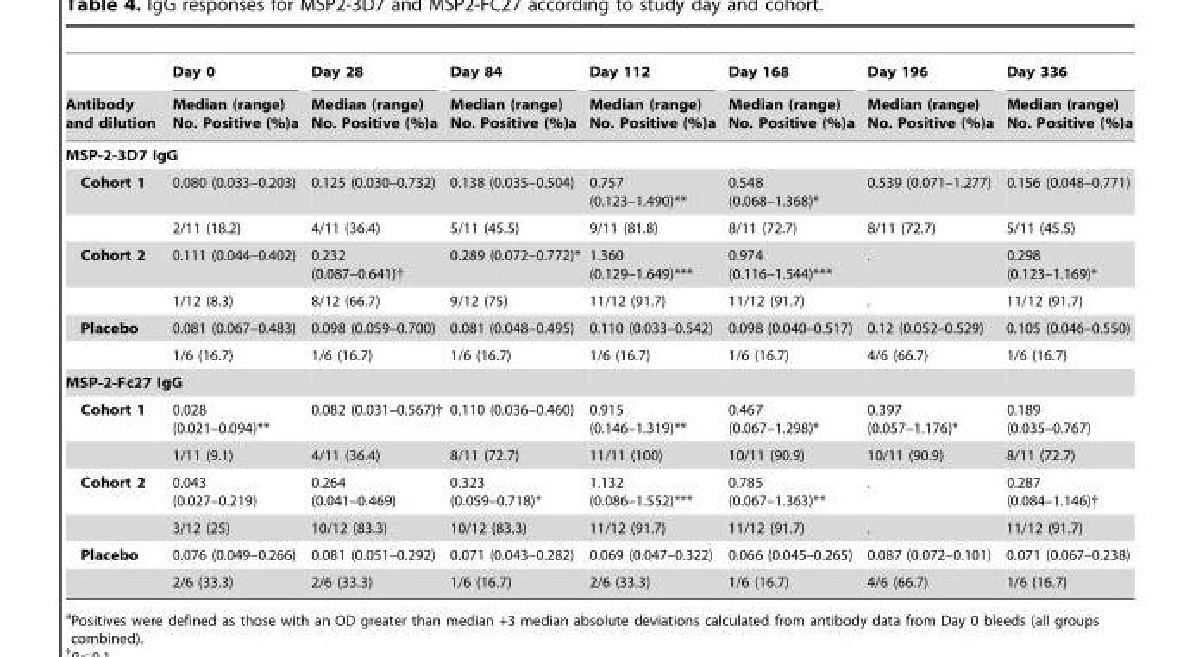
<table><thead><tr><td rowspan="2">Antibody and dilution</td><td rowspan="2">Day 0 Median (range) No. Positive (%)<sup>a</sup></td><td rowspan="2">Day 28 Median (range) No. Positive (%)<sup>a</sup></td><td rowspan="2">Day 84 Median (range) No. Positive (%)<sup>a</sup></td><td rowspan="2">Day 112 Median (range) No. Positive (%)<sup>a</sup></td><td rowspan="2">Day 168 Median (range) No. Positive (%)<sup>a</sup></td><td rowspan="2">Day 196 Median (range) No. Positive (%)<sup>a</sup></td><td rowspan="2">Day 336 Median (range) No. Positive (%)<sup>a</sup></td></tr><tr></tr></thead><tbody><tr><td colspan="8">MSP-2-3D7 IgG</td></tr><tr><td rowspan="2">Cohort 1</td><td>0.080 (0.033–0.203)</td><td>0.125 (0.030–0.732)</td><td>0.138 (0.035–0.504)</td><td>0.757 (0.123–1.490)**</td><td>0.548 (0.068–1.368)*</td><td>0.539 (0.071–1.277)</td><td>0.156 (0.048–0.771)</td></tr><tr><td>2/11 (18.2)</td><td>4/11 (36.4)</td><td>5/11 (45.5)</td><td>9/11 (81.8)</td><td>8/11 (72.7)</td><td>8/11 (72.7)</td><td>5/11 (45.5)</td></tr><tr><td rowspan="2">Cohort 2</td><td>0.111 (0.044–0.402)</td><td>0.232 (0.087–0.641)†</td><td>0.289 (0.072–0.772)*</td><td>1.360 (0.129–1.649)***</td><td>0.974 (0.116–1.544)***</td><td>.</td><td>0.298 (0.123–1.169)*</td></tr><tr><td>1/12 (8.3)</td><td>8/12 (66.7)</td><td>9/12 (75)</td><td>11/12 (91.7)</td><td>11/12 (91.7)</td><td>.</td><td>11/12 (91.7)</td></tr><tr><td rowspan="2">Placebo</td><td>0.081 (0.067–0.483)</td><td>0.098 (0.059–0.700)</td><td>0.081 (0.048–0.495)</td><td>0.110 (0.033–0.542)</td><td>0.098 (0.040–0.517)</td><td>0.12 (0.052–0.529)</td><td>0.105 (0.046–0.550)</td></tr><tr><td>1/6 (16.7)</td><td>1/6 (16.7)</td><td>1/6 (16.7)</td><td>1/6 (16.7)</td><td>1/6 (16.7)</td><td>4/6 (66.7)</td><td>1/6 (16.7)</td></tr><tr><td colspan="8">MSP-2-Fc27 IgG</td></tr><tr><td rowspan="2">Cohort 1</td><td>0.028 (0.021–0.094)**</td><td>0.082 (0.031–0.567)†</td><td>0.110 (0.036–0.460)</td><td>0.915 (0.146–1.319)**</td><td>0.467 (0.067–1.298)*</td><td>0.397 (0.057–1.176)*</td><td>0.189 (0.035–0.767)</td></tr><tr><td>1/11 (9.1)</td><td>4/11 (36.4)</td><td>8/11 (72.7)</td><td>11/11 (100)</td><td>10/11 (90.9)</td><td>10/11 (90.9)</td><td>8/11 (72.7)</td></tr><tr><td rowspan="2">Cohort 2</td><td>0.043 (0.027–0.219)</td><td>0.264 (0.041–0.469)</td><td>0.323 (0.059–0.718)*</td><td>1.132 (0.086–1.552)***</td><td>0.785 (0.067–1.363)**</td><td>.</td><td>0.287 (0.084–1.146)†</td></tr><tr><td>3/12 (25)</td><td>10/12 (83.3)</td><td>10/12 (83.3)</td><td>11/12 (91.7)</td><td>11/12 (91.7)</td><td>.</td><td>11/12 (91.7)</td></tr><tr><td rowspan="2">Placebo</td><td>0.076 (0.049–0.266)</td><td>0.081 (0.051–0.292)</td><td>0.071 (0.043–0.282)</td><td>0.069 (0.047–0.322)</td><td>0.066 (0.045–0.265)</td><td>0.087 (0.072–0.101)</td><td>0.071 (0.067–0.238)</td></tr><tr><td>2/6 (33.3)</td><td>2/6 (33.3)</td><td>1/6 (16.7)</td><td>2/6 (33.3)</td><td>1/6 (16.7)</td><td>4/6 (66.7)</td><td>1/6 (16.7)</td></tr></tbody></table>